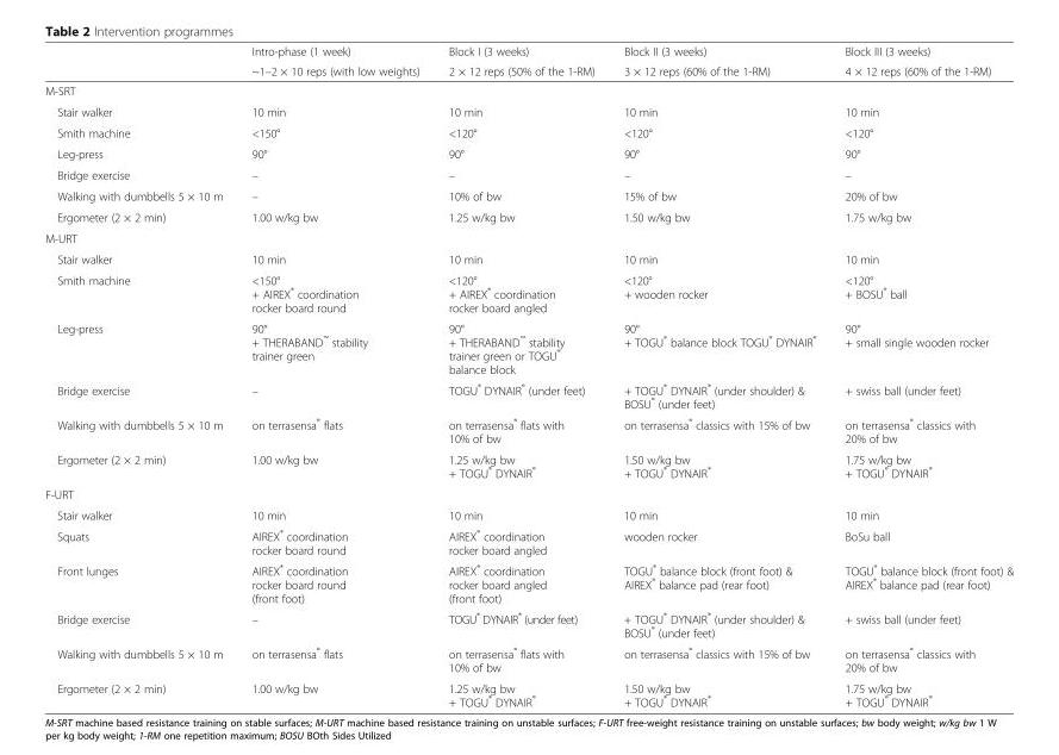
<table><thead><tr><td rowspan="2"></td><td rowspan="2">Intro-phase (1 week) ~1–2 × 10 reps (with low weights)</td><td rowspan="2">Block I (3 weeks) 2 × 12 reps (50% of the 1-RM)</td><td rowspan="2">Block II (3 weeks) 3 × 12 reps (60% of the 1-RM)</td><td rowspan="2">Block III (3 weeks) 4 × 12 reps (60% of the 1-RM)</td></tr><tr></tr></thead><tbody><tr><td colspan="5">M-SRT</td></tr><tr><td>Stair walker</td><td>10 min</td><td>10 min</td><td>10 min</td><td>10 min</td></tr><tr><td>Smith machine</td><td>&lt;150°</td><td>&lt;120°</td><td>&lt;120°</td><td>&lt;120°</td></tr><tr><td>Leg-press</td><td>90°</td><td>90°</td><td>90°</td><td>90°</td></tr><tr><td>Bridge exercise</td><td>–</td><td>–</td><td>–</td><td>–</td></tr><tr><td>Walking with dumbbells 5 × 10 m</td><td>–</td><td>10% of bw</td><td>15% of bw</td><td>20% of bw</td></tr><tr><td>Ergometer (2 × 2 min)</td><td>1.00 w/kg bw</td><td>1.25 w/kg bw</td><td>1.50 w/kg bw</td><td>1.75 w/kg bw</td></tr><tr><td colspan="5">M-URT</td></tr><tr><td>Stair walker</td><td>10 min</td><td>10 min</td><td>10 min</td><td>10 min</td></tr><tr><td>Smith machine</td><td>&lt;150° + AIREX<sup>®</sup> coordination rocker board round</td><td>&lt;120° + AIREX<sup>®</sup> coordination rocker board angled</td><td>&lt;120° + wooden rocker</td><td>&lt;120° + BOSU<sup>®</sup> ball</td></tr><tr><td>Leg-press</td><td>90° + THERABAND<sup>™</sup> stability trainer green</td><td>90° + THERABAND<sup>™</sup> stability trainer green or TOGU<sup>®</sup> balance block</td><td>90° + TOGU<sup>®</sup> balance block TOGU<sup>®</sup> DYNAIR<sup>®</sup></td><td>90° + small single wooden rocker</td></tr><tr><td>Bridge exercise</td><td>–</td><td>TOGU<sup>®</sup> DYNAIR<sup>®</sup> (under feet)</td><td>+ TOGU<sup>®</sup> DYNAIR<sup>®</sup> (under shoulder) &amp; BOSU<sup>®</sup> (under feet)</td><td>+ swiss ball (under feet)</td></tr><tr><td>Walking with dumbbells 5 × 10 m</td><td>on terrasensa<sup>®</sup> flats</td><td>on terrasensa<sup>®</sup> flats with 10% of bw</td><td>on terrasensa<sup>®</sup> classics with 15% of bw</td><td>on terrasensa<sup>®</sup> classics with 20% of bw</td></tr><tr><td>Ergometer (2 × 2 min)</td><td>1.00 w/kg bw</td><td>1.25 w/kg bw + TOGU<sup>®</sup> DYNAIR<sup>®</sup></td><td>1.50 w/kg bw + TOGU<sup>®</sup> DYNAIR<sup>®</sup></td><td>1.75 w/kg bw + TOGU<sup>®</sup> DYNAIR<sup>®</sup></td></tr><tr><td colspan="5">F-URT</td></tr><tr><td>Stair walker</td><td>10 min</td><td>10 min</td><td>10 min</td><td>10 min</td></tr><tr><td>Squats</td><td>AIREX<sup>®</sup> coordination rocker board round</td><td>AIREX<sup>®</sup> coordination rocker board angled</td><td>wooden rocker</td><td>BoSu ball</td></tr><tr><td>Front lunges</td><td>AIREX<sup>®</sup> coordination rocker board round (front foot)</td><td>AIREX<sup>®</sup> coordination rocker board angled (front foot)</td><td>TOGU<sup>®</sup> balance block (front foot) &amp; AIREX<sup>®</sup> balance pad (rear foot)</td><td>TOGU<sup>®</sup> balance block (front foot) &amp; AIREX<sup>®</sup> balance pad (rear foot)</td></tr><tr><td>Bridge exercise</td><td>–</td><td>TOGU<sup>®</sup> DYNAIR<sup>®</sup> (under feet)</td><td>+ TOGU<sup>®</sup> DYNAIR<sup>®</sup> (under shoulder) &amp; BOSU<sup>®</sup> (under feet)</td><td>+ swiss ball (under feet)</td></tr><tr><td>Walking with dumbbells 5 × 10 m</td><td>on terrasensa<sup>®</sup> flats</td><td>on terrasensa<sup>®</sup> flats with 10% of bw</td><td>on terrasensa<sup>®</sup> classics with 15% of bw</td><td>on terrasensa<sup>®</sup> classics with 20% of bw</td></tr><tr><td>Ergometer (2 × 2 min)</td><td>1.00 w/kg bw</td><td>1.25 w/kg bw + TOGU<sup>®</sup> DYNAIR<sup>®</sup></td><td>1.50 w/kg bw + TOGU<sup>®</sup> DYNAIR<sup>®</sup></td><td>1.75 w/kg bw + TOGU<sup>®</sup> DYNAIR<sup>®</sup></td></tr></tbody></table>